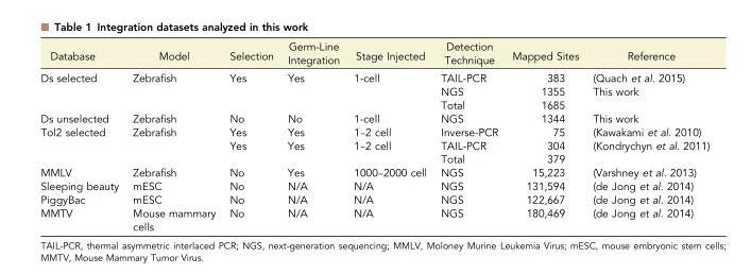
<table><thead><tr><td>Database</td><td>Model</td><td>Selection</td><td>Germ-Line Integration</td><td>Stage Injected</td><td>Detection Technique</td><td>Mapped Sites</td><td>Reference</td></tr></thead><tbody><tr><td rowspan="3">Ds selected</td><td>Zebrafish</td><td>Yes</td><td>Yes</td><td>1-cell</td><td>TAIL-PCR</td><td>383</td><td>(Quach et al. 2015)</td></tr><tr><td></td><td></td><td></td><td></td><td>NGS</td><td>1355</td><td>This work</td></tr><tr><td></td><td></td><td></td><td></td><td>Total</td><td>1685</td><td></td></tr><tr><td>Ds unselected</td><td>Zebrafish</td><td>No</td><td>No</td><td>1-cell</td><td>NGS</td><td>1344</td><td>This work</td></tr><tr><td rowspan="3">Tol2 selected</td><td>Zebrafish</td><td>Yes</td><td>Yes</td><td>1–2 cell</td><td>Inverse-PCR</td><td>75</td><td>(Kawakami et al. 2010)</td></tr><tr><td></td><td>Yes</td><td>Yes</td><td>1–2 cell</td><td>TAIL-PCR</td><td>304</td><td>(Kondrychyn et al. 2011)</td></tr><tr><td></td><td></td><td></td><td></td><td>Total</td><td>379</td><td></td></tr><tr><td>MMLV</td><td>Zebrafish</td><td>No</td><td>Yes</td><td>1000–2000 cell</td><td>NGS</td><td>15,223</td><td>(Varshney et al. 2013)</td></tr><tr><td>Sleeping beauty</td><td>mESC</td><td>No</td><td>N/A</td><td>N/A</td><td>NGS</td><td>131,594</td><td>(de Jong et al. 2014)</td></tr><tr><td>PiggyBac</td><td>mESC</td><td>No</td><td>N/A</td><td>N/A</td><td>NGS</td><td>122,667</td><td>(de Jong et al. 2014)</td></tr><tr><td>MMTV</td><td>Mouse mammary cells</td><td>No</td><td>N/A</td><td>N/A</td><td>NGS</td><td>180,469</td><td>(de Jong et al. 2014)</td></tr></tbody></table>